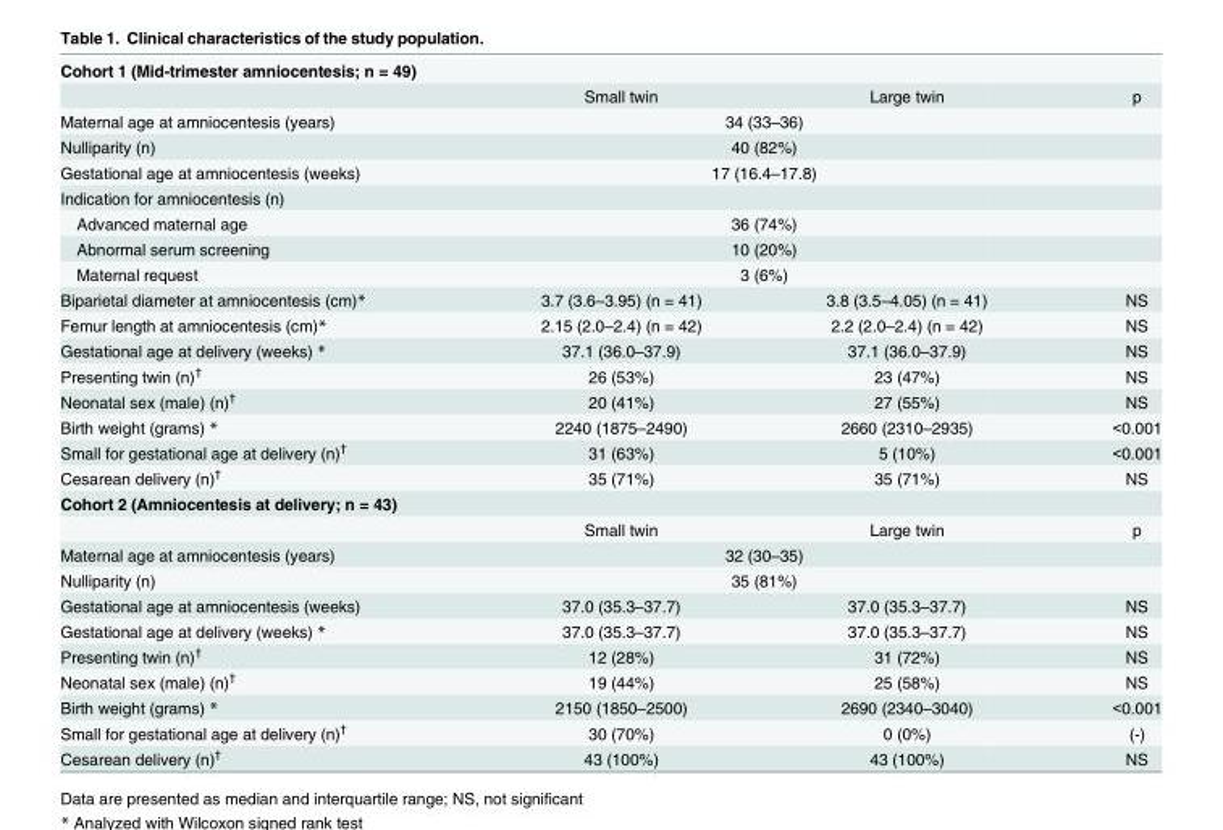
<table><tbody><tr><td colspan="4">Cohort 1 (Mid-trimester amniocentesis; n = 49)</td></tr><tr><td></td><td>Small twin</td><td>Large twin</td><td>p</td></tr><tr><td>Maternal age at amniocentesis (years)</td><td colspan="2">34 (33–36)</td><td></td></tr><tr><td>Nulliparity (n)</td><td colspan="2">40 (82%)</td><td></td></tr><tr><td>Gestational age at amniocentesis (weeks)</td><td colspan="2">17 (16.4–17.8)</td><td></td></tr><tr><td colspan="4">Indication for amniocentesis (n)</td></tr><tr><td>Advanced maternal age</td><td colspan="2">36 (74%)</td><td></td></tr><tr><td>Abnormal serum screening</td><td colspan="2">10 (20%)</td><td></td></tr><tr><td>Maternal request</td><td colspan="2">3 (6%)</td><td></td></tr><tr><td>Biparietal diameter at amniocentesis (cm)*</td><td>3.7 (3.6–3.95) (n = 41)</td><td>3.8 (3.5–4.05) (n = 41)</td><td>NS</td></tr><tr><td>Femur length at amniocentesis (cm)*</td><td>2.15 (2.0–2.4) (n = 42)</td><td>2.2 (2.0–2.4) (n = 42)</td><td>NS</td></tr><tr><td>Gestational age at delivery (weeks) *</td><td>37.1 (36.0–37.9)</td><td>37.1 (36.0–37.9)</td><td>NS</td></tr><tr><td>Presenting twin (n)<sup>†</sup></td><td>26 (53%)</td><td>23 (47%)</td><td>NS</td></tr><tr><td>Neonatal sex (male) (n)<sup>†</sup></td><td>20 (41%)</td><td>27 (55%)</td><td>NS</td></tr><tr><td>Birth weight (grams) *</td><td>2240 (1875–2490)</td><td>2660 (2310–2935)</td><td>&lt;0.001</td></tr><tr><td>Small for gestational age at delivery (n)<sup>†</sup></td><td>31 (63%)</td><td>5 (10%)</td><td>&lt;0.001</td></tr><tr><td>Cesarean delivery (n)<sup>†</sup></td><td>35 (71%)</td><td>35 (71%)</td><td>NS</td></tr><tr><td colspan="4">Cohort 2 (Amniocentesis at delivery; n = 43)</td></tr><tr><td></td><td>Small twin</td><td>Large twin</td><td>p</td></tr><tr><td>Maternal age at amniocentesis (years)</td><td colspan="2">32 (30–35)</td><td></td></tr><tr><td>Nulliparity (n)</td><td colspan="2">35 (81%)</td><td></td></tr><tr><td>Gestational age at amniocentesis (weeks)</td><td>37.0 (35.3–37.7)</td><td>37.0 (35.3–37.7)</td><td>NS</td></tr><tr><td>Gestational age at delivery (weeks) *</td><td>37.0 (35.3–37.7)</td><td>37.0 (35.3–37.7)</td><td>NS</td></tr><tr><td>Presenting twin (n)<sup>†</sup></td><td>12 (28%)</td><td>31 (72%)</td><td>NS</td></tr><tr><td>Neonatal sex (male) (n)<sup>†</sup></td><td>19 (44%)</td><td>25 (58%)</td><td>NS</td></tr><tr><td>Birth weight (grams) *</td><td>2150 (1850–2500)</td><td>2690 (2340–3040)</td><td>&lt;0.001</td></tr><tr><td>Small for gestational age at delivery (n)<sup>†</sup></td><td>30 (70%)</td><td>0 (0%)</td><td>(-)</td></tr><tr><td>Cesarean delivery (n)<sup>†</sup></td><td>43 (100%)</td><td>43 (100%)</td><td>NS</td></tr></tbody></table>